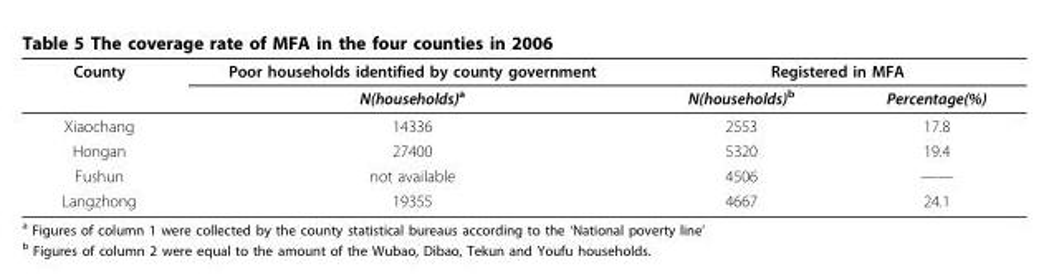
<table><thead><tr><td rowspan="2">County</td><td rowspan="2">Poor households identified by county government N(households)<sup>a</sup></td><td colspan="2">Registered in MFA</td></tr><tr><td>N(households)<sup>b</sup></td><td>Percentage(%)</td></tr></thead><tbody><tr><td>Xiaochang</td><td>14336</td><td>2553</td><td>17.8</td></tr><tr><td>Hongan</td><td>27400</td><td>5320</td><td>19.4</td></tr><tr><td>Fushun</td><td>not available</td><td>4506</td><td>——</td></tr><tr><td>Langzhong</td><td>19355</td><td>4667</td><td>24.1</td></tr></tbody></table>